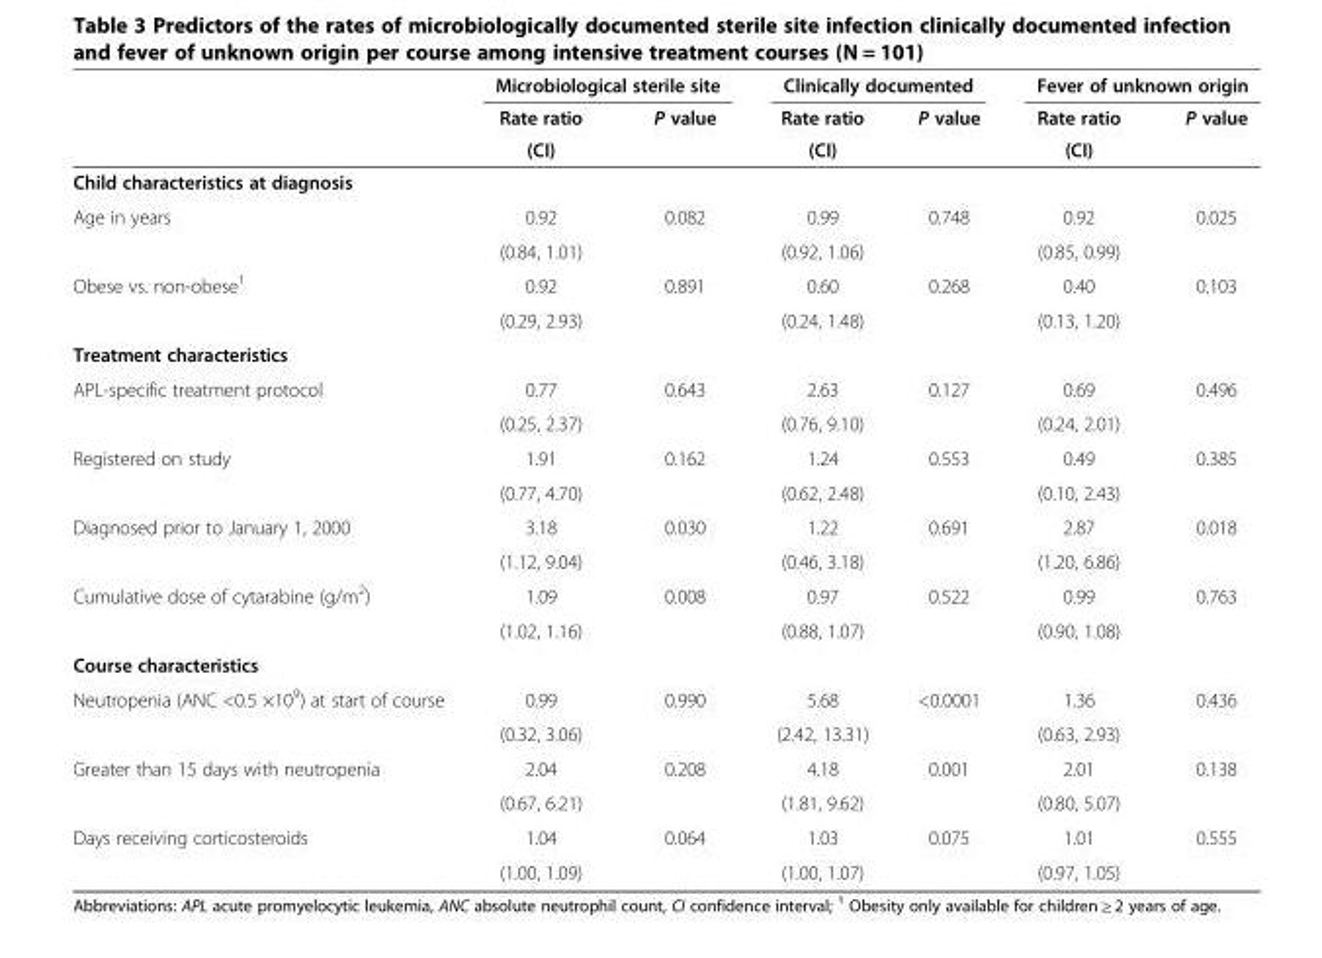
<table><thead><tr><td rowspan="3"></td><td colspan="2">Microbiological sterile site</td><td colspan="2">Clinically documented</td><td colspan="2">Fever of unknown origin</td></tr><tr><td rowspan="2">Rate ratio (CI)</td><td rowspan="2">P value</td><td rowspan="2">Rate ratio (CI)</td><td rowspan="2">P value</td><td rowspan="2">Rate ratio (CI)</td><td rowspan="2">P value</td></tr><tr></tr></thead><tbody><tr><td colspan="7">Child characteristics at diagnosis</td></tr><tr><td rowspan="2">Age in years</td><td>0.92</td><td>0.082</td><td>0.99</td><td>0.748</td><td>0.92</td><td>0.025</td></tr><tr><td>(0.84, 1.01)</td><td></td><td>(0.92, 1.06)</td><td></td><td>(0.85, 0.99)</td><td></td></tr><tr><td rowspan="2">Obese vs. non-obese<sup>1</sup></td><td>0.92</td><td>0.891</td><td>0.60</td><td>0.268</td><td>0.40</td><td>0.103</td></tr><tr><td>(0.29, 2.93)</td><td></td><td>(0.24, 1.48)</td><td></td><td>(0.13, 1.20)</td><td></td></tr><tr><td colspan="7">Treatment characteristics</td></tr><tr><td rowspan="2">APL-specific treatment protocol</td><td>0.77</td><td>0.643</td><td>2.63</td><td>0.127</td><td>0.69</td><td>0.496</td></tr><tr><td>(0.25, 2.37)</td><td></td><td>(0.76, 9.10)</td><td></td><td>(0.24, 2.01)</td><td></td></tr><tr><td rowspan="2">Registered on study</td><td>1.91</td><td>0.162</td><td>1.24</td><td>0.553</td><td>0.49</td><td>0.385</td></tr><tr><td>(0.77, 4.70)</td><td></td><td>(0.62, 2.48)</td><td></td><td>(0.10, 2.43)</td><td></td></tr><tr><td rowspan="2">Diagnosed prior to January 1, 2000</td><td>3.18</td><td>0.030</td><td>1.22</td><td>0.691</td><td>2.87</td><td>0.018</td></tr><tr><td>(1.12, 9.04)</td><td></td><td>(0.46, 3.18)</td><td></td><td>(1.20, 6.86)</td><td></td></tr><tr><td rowspan="2">Cumulative dose of cytarabine (g/m<sup>2</sup>)</td><td>1.09</td><td>0.008</td><td>0.97</td><td>0.522</td><td>0.99</td><td>0.763</td></tr><tr><td>(1.02, 1.16)</td><td></td><td>(0.88, 1.07)</td><td></td><td>(0.90, 1.08)</td><td></td></tr><tr><td colspan="7">Course characteristics</td></tr><tr><td rowspan="2">Neutropenia (ANC &lt;0.5 ×10<sup>9</sup>) at start of course</td><td>0.99</td><td>0.990</td><td>5.68</td><td>&lt;0.0001</td><td>1.36</td><td>0.436</td></tr><tr><td>(0.32, 3.06)</td><td></td><td>(2.42, 13.31)</td><td></td><td>(0.63, 2.93)</td><td></td></tr><tr><td rowspan="2">Greater than 15 days with neutropenia</td><td>2.04</td><td>0.208</td><td>4.18</td><td>0.001</td><td>2.01</td><td>0.138</td></tr><tr><td>(0.67, 6.21)</td><td></td><td>(1.81, 9.62)</td><td></td><td>(0.80, 5.07)</td><td></td></tr><tr><td rowspan="2">Days receiving corticosteroids</td><td>1.04</td><td>0.064</td><td>1.03</td><td>0.075</td><td>1.01</td><td>0.555</td></tr><tr><td>(1.00, 1.09)</td><td></td><td>(1.00, 1.07)</td><td></td><td>(0.97, 1.05)</td><td></td></tr></tbody></table>